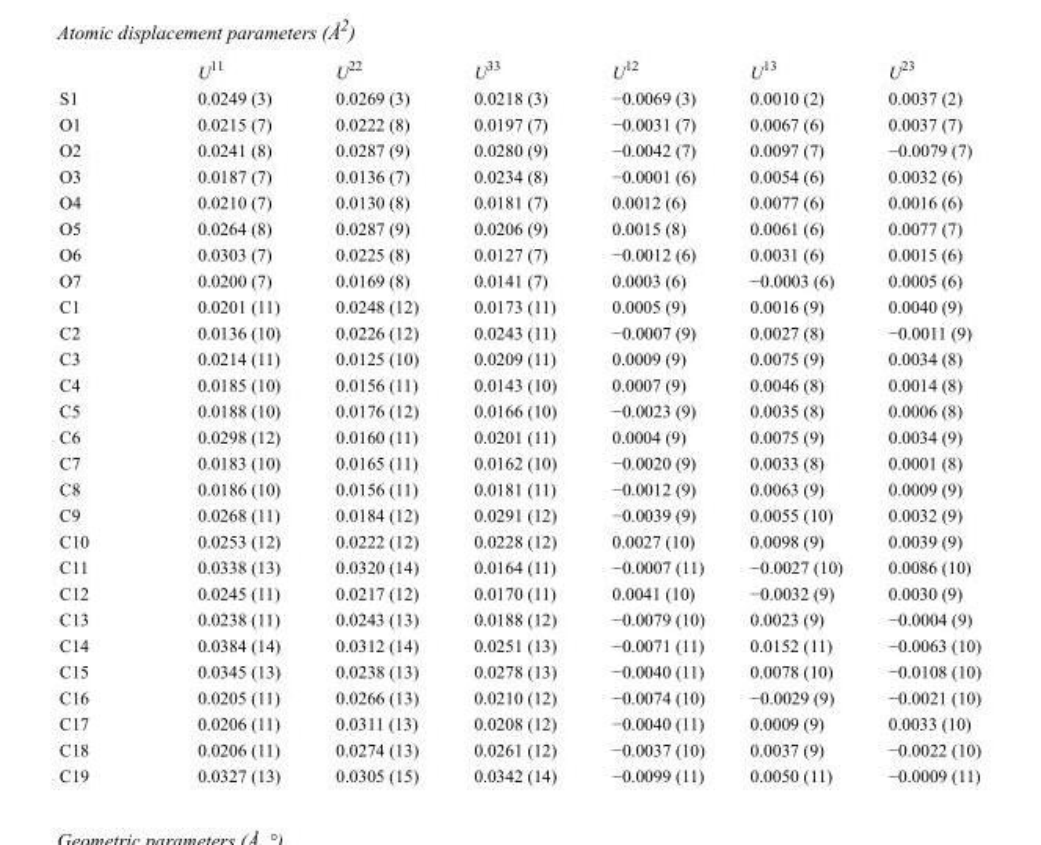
<table><thead><tr><td></td><td>U<sup>11</sup></td><td>U<sup>22</sup></td><td>U<sup>33</sup></td><td>U<sup>12</sup></td><td>U<sup>13</sup></td><td>U<sup>23</sup></td></tr></thead><tbody><tr><td>S1</td><td>0.0249 (3)</td><td>0.0269 (3)</td><td>0.0218 (3)</td><td>−0.0069 (3)</td><td>0.0010 (2)</td><td>0.0037 (2)</td></tr><tr><td>O1</td><td>0.0215 (7)</td><td>0.0222 (8)</td><td>0.0197 (7)</td><td>−0.0031 (7)</td><td>0.0067 (6)</td><td>0.0037 (7)</td></tr><tr><td>O2</td><td>0.0241 (8)</td><td>0.0287 (9)</td><td>0.0280 (9)</td><td>−0.0042 (7)</td><td>0.0097 (7)</td><td>−0.0079 (7)</td></tr><tr><td>O3</td><td>0.0187 (7)</td><td>0.0136 (7)</td><td>0.0234 (8)</td><td>−0.0001 (6)</td><td>0.0054 (6)</td><td>0.0032 (6)</td></tr><tr><td>O4</td><td>0.0210 (7)</td><td>0.0130 (8)</td><td>0.0181 (7)</td><td>0.0012 (6)</td><td>0.0077 (6)</td><td>0.0016 (6)</td></tr><tr><td>O5</td><td>0.0264 (8)</td><td>0.0287 (9)</td><td>0.0206 (9)</td><td>0.0015 (8)</td><td>0.0061 (6)</td><td>0.0077 (7)</td></tr><tr><td>O6</td><td>0.0303 (7)</td><td>0.0225 (8)</td><td>0.0127 (7)</td><td>−0.0012 (6)</td><td>0.0031 (6)</td><td>0.0015 (6)</td></tr><tr><td>O7</td><td>0.0200 (7)</td><td>0.0169 (8)</td><td>0.0141 (7)</td><td>0.0003 (6)</td><td>−0.0003 (6)</td><td>0.0005 (6)</td></tr><tr><td>C1</td><td>0.0201 (11)</td><td>0.0248 (12)</td><td>0.0173 (11)</td><td>0.0005 (9)</td><td>0.0016 (9)</td><td>0.0040 (9)</td></tr><tr><td>C2</td><td>0.0136 (10)</td><td>0.0226 (12)</td><td>0.0243 (11)</td><td>−0.0007 (9)</td><td>0.0027 (8)</td><td>−0.0011 (9)</td></tr><tr><td>C3</td><td>0.0214 (11)</td><td>0.0125 (10)</td><td>0.0209 (11)</td><td>0.0009 (9)</td><td>0.0075 (9)</td><td>0.0034 (8)</td></tr><tr><td>C4</td><td>0.0185 (10)</td><td>0.0156 (11)</td><td>0.0143 (10)</td><td>0.0007 (9)</td><td>0.0046 (8)</td><td>0.0014 (8)</td></tr><tr><td>C5</td><td>0.0188 (10)</td><td>0.0176 (12)</td><td>0.0166 (10)</td><td>−0.0023 (9)</td><td>0.0035 (8)</td><td>0.0006 (8)</td></tr><tr><td>C6</td><td>0.0298 (12)</td><td>0.0160 (11)</td><td>0.0201 (11)</td><td>0.0004 (9)</td><td>0.0075 (9)</td><td>0.0034 (9)</td></tr><tr><td>C7</td><td>0.0183 (10)</td><td>0.0165 (11)</td><td>0.0162 (10)</td><td>−0.0020 (9)</td><td>0.0033 (8)</td><td>0.0001 (8)</td></tr><tr><td>C8</td><td>0.0186 (10)</td><td>0.0156 (11)</td><td>0.0181 (11)</td><td>−0.0012 (9)</td><td>0.0063 (9)</td><td>0.0009 (9)</td></tr><tr><td>C9</td><td>0.0268 (11)</td><td>0.0184 (12)</td><td>0.0291 (12)</td><td>−0.0039 (9)</td><td>0.0055 (10)</td><td>0.0032 (9)</td></tr><tr><td>C10</td><td>0.0253 (12)</td><td>0.0222 (12)</td><td>0.0228 (12)</td><td>0.0027 (10)</td><td>0.0098 (9)</td><td>0.0039 (9)</td></tr><tr><td>C11</td><td>0.0338 (13)</td><td>0.0320 (14)</td><td>0.0164 (11)</td><td>−0.0007 (11)</td><td>−0.0027 (10)</td><td>0.0086 (10)</td></tr><tr><td>C12</td><td>0.0245 (11)</td><td>0.0217 (12)</td><td>0.0170 (11)</td><td>0.0041 (10)</td><td>−0.0032 (9)</td><td>0.0030 (9)</td></tr><tr><td>C13</td><td>0.0238 (11)</td><td>0.0243 (13)</td><td>0.0188 (12)</td><td>−0.0079 (10)</td><td>0.0023 (9)</td><td>−0.0004 (9)</td></tr><tr><td>C14</td><td>0.0384 (14)</td><td>0.0312 (14)</td><td>0.0251 (13)</td><td>−0.0071 (11)</td><td>0.0152 (11)</td><td>−0.0063 (10)</td></tr><tr><td>C15</td><td>0.0345 (13)</td><td>0.0238 (13)</td><td>0.0278 (13)</td><td>−0.0040 (11)</td><td>0.0078 (10)</td><td>−0.0108 (10)</td></tr><tr><td>C16</td><td>0.0205 (11)</td><td>0.0266 (13)</td><td>0.0210 (12)</td><td>−0.0074 (10)</td><td>−0.0029 (9)</td><td>−0.0021 (10)</td></tr><tr><td>C17</td><td>0.0206 (11)</td><td>0.0311 (13)</td><td>0.0208 (12)</td><td>−0.0040 (11)</td><td>0.0009 (9)</td><td>0.0033 (10)</td></tr><tr><td>C18</td><td>0.0206 (11)</td><td>0.0274 (13)</td><td>0.0261 (12)</td><td>−0.0037 (10)</td><td>0.0037 (9)</td><td>−0.0022 (10)</td></tr><tr><td>C19</td><td>0.0327 (13)</td><td>0.0305 (15)</td><td>0.0342 (14)</td><td>−0.0099 (11)</td><td>0.0050 (11)</td><td>−0.0009 (11)</td></tr></tbody></table>